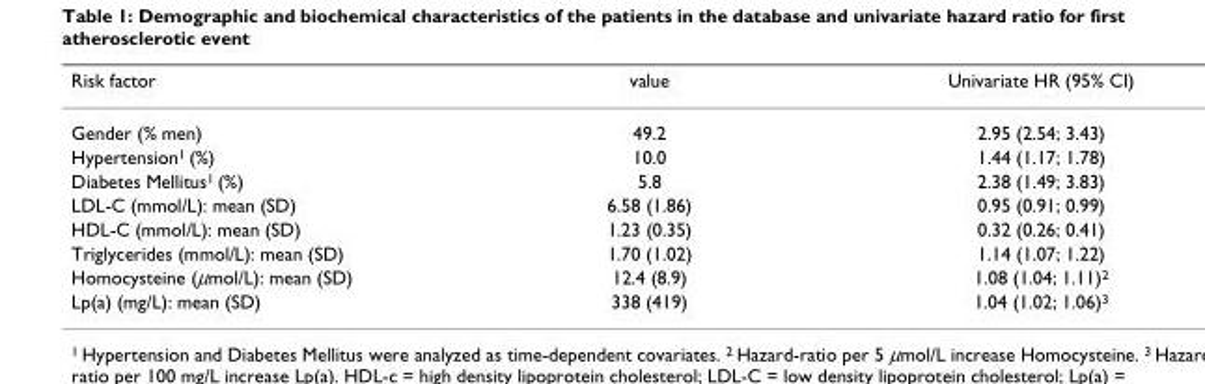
<table><thead><tr><td>Risk factor</td><td>value</td><td>Univariate HR (95% CI)</td></tr></thead><tbody><tr><td>Gender (% men)</td><td>49.2</td><td>2.95 (2.54; 3.43)</td></tr><tr><td>Hypertension1 (%)</td><td>10.0</td><td>1.44 (1.17; 1.78)</td></tr><tr><td>Diabetes Mellitus1 (%)</td><td>5.8</td><td>2.38 (1.49; 3.83)</td></tr><tr><td>LDL-C (mmol/L): mean (SD)</td><td>6.58 (1.86)</td><td>0.95 (0.91; 0.99)</td></tr><tr><td>HDL-C (mmol/L): mean (SD)</td><td>1.23 (0.35)</td><td>0.32 (0.26; 0.41)</td></tr><tr><td>Triglycerides (mmol/L): mean (SD)</td><td>1.70 (1.02)</td><td>1.14 (1.07; 1.22)</td></tr><tr><td>Homocysteine (μmol/L): mean (SD)</td><td>12.4 (8.9)</td><td>1.08 (1.04; 1.11)2</td></tr><tr><td>Lp(a) (mg/L): mean (SD)</td><td>338 (419)</td><td>1.04 (1.02; 1.06)3</td></tr></tbody></table>